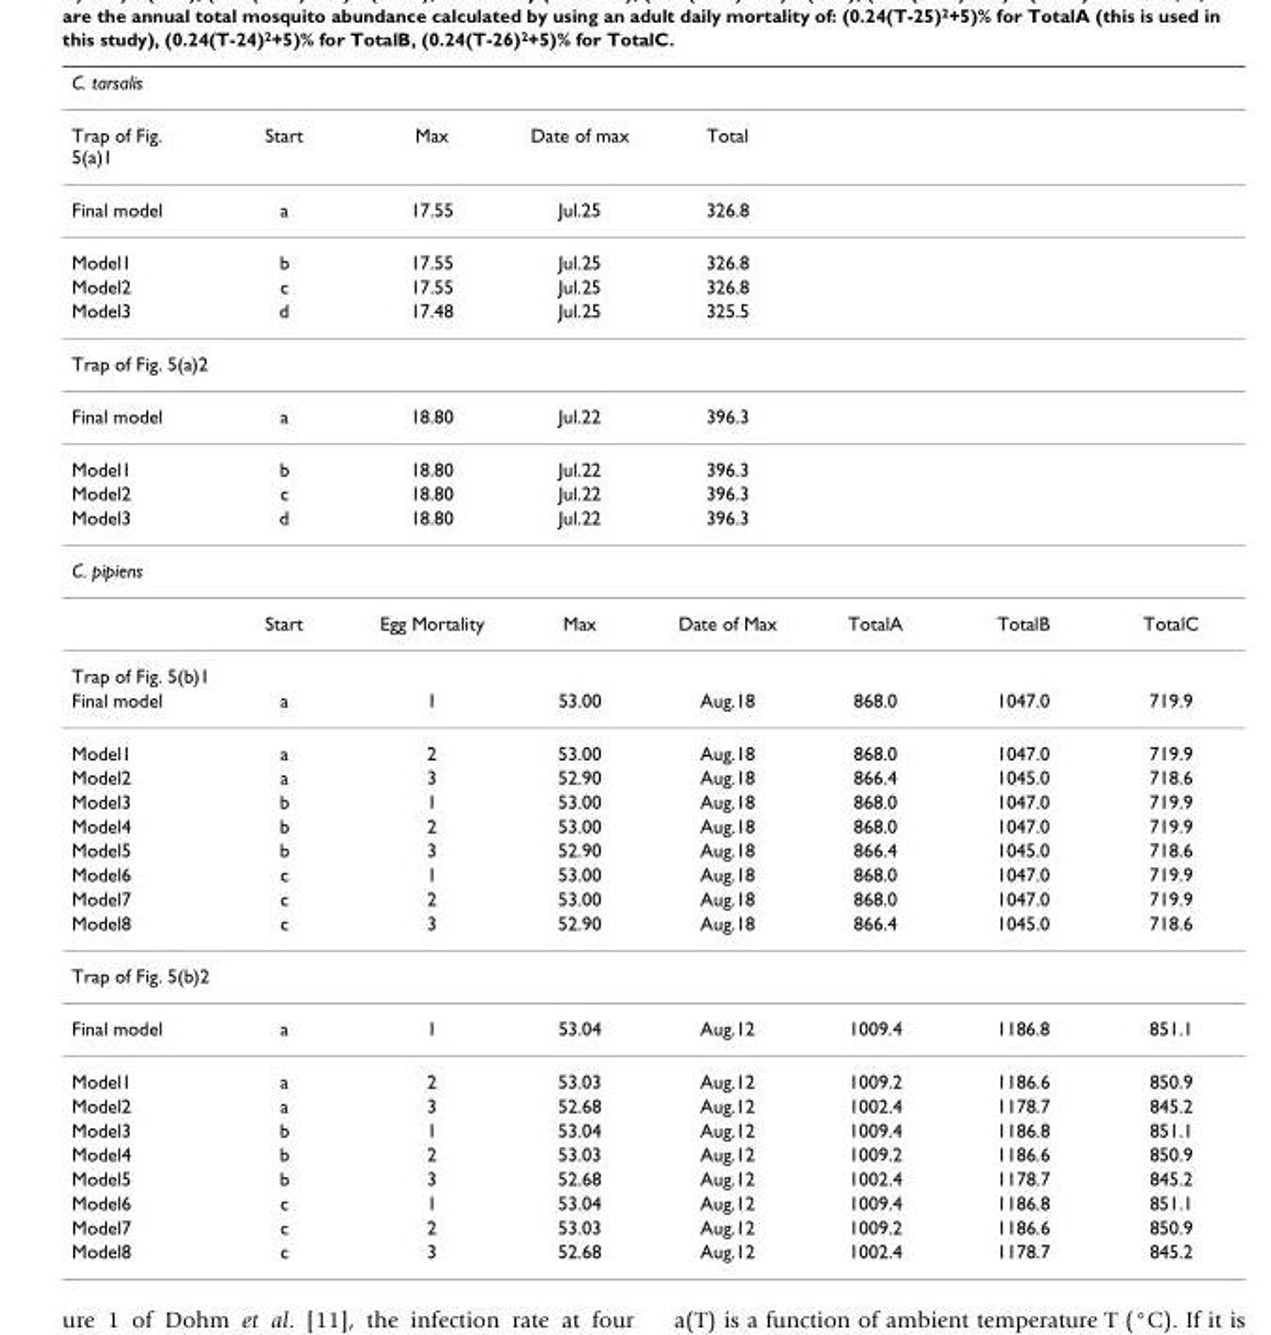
<table><thead><tr><td colspan="8">C. tarsalis</td></tr><tr><td>Trap of Fig. 5(a)1</td><td>Start</td><td>Max</td><td>Date of max</td><td>Total</td><td></td><td></td><td></td></tr></thead><tbody><tr><td>Final model</td><td>a</td><td>17.55</td><td>Jul.25</td><td>326.8</td><td></td><td></td><td></td></tr><tr><td>Model1</td><td>b</td><td>17.55</td><td>Jul.25</td><td>326.8</td><td></td><td></td><td></td></tr><tr><td>Model2</td><td>c</td><td>17.55</td><td>Jul.25</td><td>326.8</td><td></td><td></td><td></td></tr><tr><td>Model3</td><td>d</td><td>17.48</td><td>Jul.25</td><td>325.5</td><td></td><td></td><td></td></tr><tr><td colspan="8">Trap of Fig. 5(a)2</td></tr><tr><td>Final model</td><td>a</td><td>18.80</td><td>Jul.22</td><td>396.3</td><td></td><td></td><td></td></tr><tr><td>Model1</td><td>b</td><td>18.80</td><td>Jul.22</td><td>396.3</td><td></td><td></td><td></td></tr><tr><td>Model2</td><td>c</td><td>18.80</td><td>Jul.22</td><td>396.3</td><td></td><td></td><td></td></tr><tr><td>Model3</td><td>d</td><td>18.80</td><td>Jul.22</td><td>396.3</td><td></td><td></td><td></td></tr><tr><td colspan="8">C. pipiens</td></tr><tr><td></td><td>Start</td><td>Egg Mortality</td><td>Max</td><td>Date of Max</td><td>TotalA</td><td>TotalB</td><td>TotalC</td></tr><tr><td colspan="8">Trap of Fig. 5(b)1</td></tr><tr><td>Final model</td><td>a</td><td>1</td><td>53.00</td><td>Aug.18</td><td>868.0</td><td>1047.0</td><td>719.9</td></tr><tr><td>Model1</td><td>a</td><td>2</td><td>53.00</td><td>Aug.18</td><td>868.0</td><td>1047.0</td><td>719.9</td></tr><tr><td>Model2</td><td>a</td><td>3</td><td>52.90</td><td>Aug.18</td><td>866.4</td><td>1045.0</td><td>718.6</td></tr><tr><td>Model3</td><td>b</td><td>1</td><td>53.00</td><td>Aug.18</td><td>868.0</td><td>1047.0</td><td>719.9</td></tr><tr><td>Model4</td><td>b</td><td>2</td><td>53.00</td><td>Aug.18</td><td>868.0</td><td>1047.0</td><td>719.9</td></tr><tr><td>Model5</td><td>b</td><td>3</td><td>52.90</td><td>Aug.18</td><td>866.4</td><td>1045.0</td><td>718.6</td></tr><tr><td>Model6</td><td>c</td><td>1</td><td>53.00</td><td>Aug.18</td><td>868.0</td><td>1047.0</td><td>719.9</td></tr><tr><td>Model7</td><td>c</td><td>2</td><td>53.00</td><td>Aug.18</td><td>868.0</td><td>1047.0</td><td>719.9</td></tr><tr><td>Model8</td><td>c</td><td>3</td><td>52.90</td><td>Aug.18</td><td>866.4</td><td>1045.0</td><td>718.6</td></tr><tr><td colspan="8">Trap of Fig. 5(b)2</td></tr><tr><td>Final model</td><td>a</td><td>1</td><td>53.04</td><td>Aug.12</td><td>1009.4</td><td>1186.8</td><td>851.1</td></tr><tr><td>Model1</td><td>a</td><td>2</td><td>53.03</td><td>Aug.12</td><td>1009.2</td><td>1186.6</td><td>850.9</td></tr><tr><td>Model2</td><td>a</td><td>3</td><td>52.68</td><td>Aug.12</td><td>1002.4</td><td>1178.7</td><td>845.2</td></tr><tr><td>Model3</td><td>b</td><td>1</td><td>53.04</td><td>Aug.12</td><td>1009.4</td><td>1186.8</td><td>851.1</td></tr><tr><td>Model4</td><td>b</td><td>2</td><td>53.03</td><td>Aug.12</td><td>1009.2</td><td>1186.6</td><td>850.9</td></tr><tr><td>Model5</td><td>b</td><td>3</td><td>52.68</td><td>Aug.12</td><td>1002.4</td><td>1178.7</td><td>845.2</td></tr><tr><td>Model6</td><td>c</td><td>1</td><td>53.04</td><td>Aug.12</td><td>1009.4</td><td>1186.8</td><td>851.1</td></tr><tr><td>Model7</td><td>c</td><td>2</td><td>53.03</td><td>Aug.12</td><td>1009.2</td><td>1186.6</td><td>850.9</td></tr><tr><td>Model8</td><td>c</td><td>3</td><td>52.68</td><td>Aug.12</td><td>1002.4</td><td>1178.7</td><td>845.2</td></tr></tbody></table>